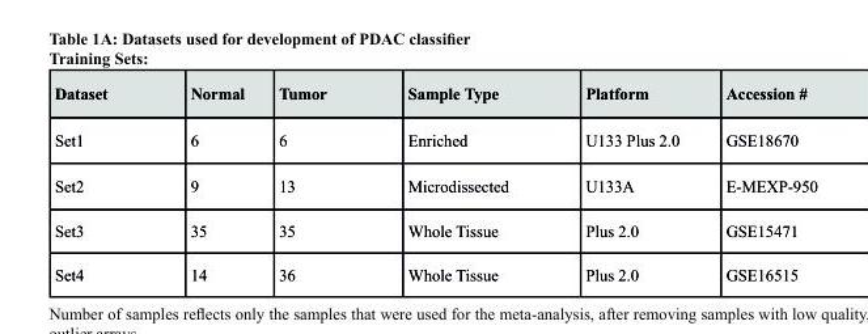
<table><thead><tr><td colspan="6">Training Sets:</td></tr><tr><td>dataset</td><td>Normal</td><td>Tumor</td><td>Sample Type</td><td>Platform</td><td>Accession #</td></tr></thead><tbody><tr><td>Set1</td><td>6</td><td>6</td><td>Enriched</td><td>U133 Plus 2.0</td><td>GSE18670</td></tr><tr><td>Set2</td><td>9</td><td>13</td><td>Microdissected</td><td>U133A</td><td>E-MEXP-950</td></tr><tr><td>Set3</td><td>35</td><td>35</td><td>Whole Tissue</td><td>Plus 2.0</td><td>GSE15471</td></tr><tr><td>Set4</td><td>14</td><td>36</td><td>Whole Tissue</td><td>Plus 2.0</td><td>GSE16515</td></tr></tbody></table>